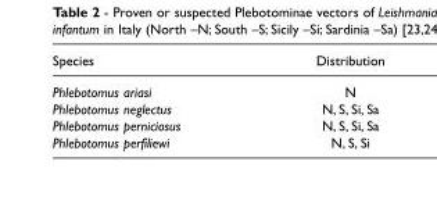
<table><thead><tr><td>Species</td><td>Distribution</td></tr></thead><tbody><tr><td>Phlebotomus ariasi</td><td>N</td></tr><tr><td>Phlebotomus neglectus</td><td>N, S, Si, Sa</td></tr><tr><td>Phlebotomus perniciosus</td><td>N, S, Si, Sa</td></tr><tr><td>Phlebotomus perfiliewi</td><td>N, S, Si</td></tr></tbody></table>